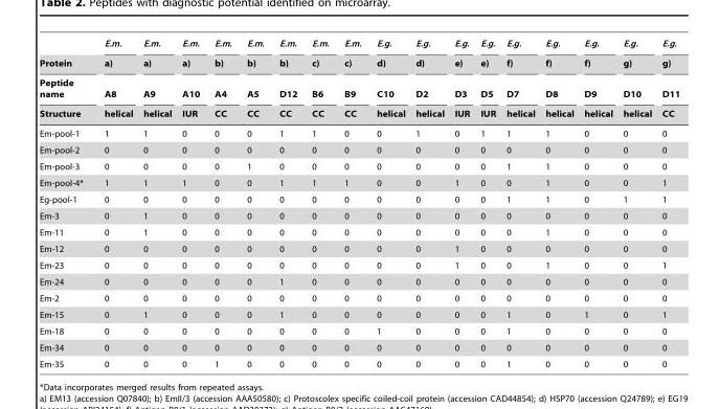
<table><thead><tr><td rowspan="4">Protein Peptide name Structure</td><td rowspan="4">E.m. a) A8 helical</td><td rowspan="4">E.m. a) A9 helical</td><td rowspan="4">E.m. a) A10 IUR</td><td rowspan="4">E.m. b) A4 CC</td><td rowspan="4">E.m. b) A5 CC</td><td rowspan="4">E.m. b) D12 CC</td><td rowspan="4">E.m. c) B6 CC</td><td rowspan="4">E.m. c) B9 CC</td><td rowspan="4">E.g. d) C10 helical</td><td rowspan="4">E.g. d) D2 helical</td><td rowspan="4">E.g. e) D3 IUR</td><td rowspan="4">E.g. e) D5 IUR</td><td rowspan="4">E.g. f) D7 helical</td><td rowspan="4">E.g. f) D8 helical</td><td rowspan="4">E.g. f) D9 helical</td><td rowspan="4">E.g. g) D10 helical</td><td rowspan="4">E.g. g) D11 CC</td></tr><tr></tr><tr></tr><tr></tr></thead><tbody><tr><td>Em-pool-1</td><td>1</td><td>1</td><td>0</td><td>0</td><td>0</td><td>1</td><td>1</td><td>0</td><td>0</td><td>1</td><td>0</td><td>1</td><td>1</td><td>1</td><td>0</td><td>0</td><td>0</td></tr><tr><td>Em-pool-2</td><td>0</td><td>0</td><td>0</td><td>0</td><td>0</td><td>0</td><td>0</td><td>0</td><td>0</td><td>0</td><td>0</td><td>0</td><td>0</td><td>0</td><td>0</td><td>0</td><td>0</td></tr><tr><td>Em-pool-3</td><td>0</td><td>0</td><td>0</td><td>0</td><td>1</td><td>0</td><td>0</td><td>0</td><td>0</td><td>0</td><td>0</td><td>0</td><td>1</td><td>1</td><td>0</td><td>0</td><td>0</td></tr><tr><td>Em-pool-4*</td><td>1</td><td>1</td><td>1</td><td>0</td><td>0</td><td>1</td><td>1</td><td>1</td><td>0</td><td>0</td><td>1</td><td>0</td><td>0</td><td>1</td><td>0</td><td>0</td><td>1</td></tr><tr><td>Eg-pool-1</td><td>0</td><td>0</td><td>0</td><td>0</td><td>0</td><td>0</td><td>0</td><td>0</td><td>0</td><td>0</td><td>0</td><td>0</td><td>1</td><td>1</td><td>0</td><td>1</td><td>1</td></tr><tr><td>Em-3</td><td>0</td><td>1</td><td>0</td><td>0</td><td>0</td><td>0</td><td>0</td><td>0</td><td>0</td><td>0</td><td>0</td><td>0</td><td>0</td><td>0</td><td>0</td><td>0</td><td>0</td></tr><tr><td>Em-11</td><td>0</td><td>1</td><td>0</td><td>0</td><td>0</td><td>0</td><td>0</td><td>0</td><td>0</td><td>0</td><td>0</td><td>0</td><td>0</td><td>1</td><td>0</td><td>0</td><td>0</td></tr><tr><td>Em-12</td><td>0</td><td>0</td><td>0</td><td>0</td><td>0</td><td>0</td><td>0</td><td>0</td><td>0</td><td>0</td><td>1</td><td>0</td><td>0</td><td>0</td><td>0</td><td>0</td><td>0</td></tr><tr><td>Em-23</td><td>0</td><td>0</td><td>0</td><td>0</td><td>0</td><td>0</td><td>0</td><td>0</td><td>0</td><td>0</td><td>1</td><td>0</td><td>0</td><td>1</td><td>0</td><td>0</td><td>1</td></tr><tr><td>Em-24</td><td>0</td><td>0</td><td>0</td><td>0</td><td>0</td><td>1</td><td>0</td><td>0</td><td>0</td><td>0</td><td>0</td><td>0</td><td>0</td><td>0</td><td>0</td><td>0</td><td>0</td></tr><tr><td>Em-2</td><td>0</td><td>0</td><td>0</td><td>0</td><td>0</td><td>0</td><td>0</td><td>0</td><td>0</td><td>0</td><td>0</td><td>0</td><td>0</td><td>0</td><td>0</td><td>0</td><td>0</td></tr><tr><td>Em-15</td><td>0</td><td>1</td><td>0</td><td>0</td><td>0</td><td>1</td><td>0</td><td>0</td><td>0</td><td>0</td><td>0</td><td>0</td><td>1</td><td>0</td><td>1</td><td>0</td><td>1</td></tr><tr><td>Em-18</td><td>0</td><td>0</td><td>0</td><td>0</td><td>0</td><td>0</td><td>0</td><td>0</td><td>1</td><td>0</td><td>0</td><td>0</td><td>1</td><td>0</td><td>0</td><td>0</td><td>0</td></tr><tr><td>Em-34</td><td>0</td><td>0</td><td>0</td><td>0</td><td>0</td><td>0</td><td>0</td><td>0</td><td>0</td><td>0</td><td>0</td><td>0</td><td>0</td><td>0</td><td>0</td><td>0</td><td>0</td></tr><tr><td>Em-35</td><td>0</td><td>0</td><td>0</td><td>1</td><td>0</td><td>0</td><td>0</td><td>0</td><td>0</td><td>0</td><td>0</td><td>0</td><td>1</td><td>0</td><td>0</td><td>0</td><td>0</td></tr></tbody></table>